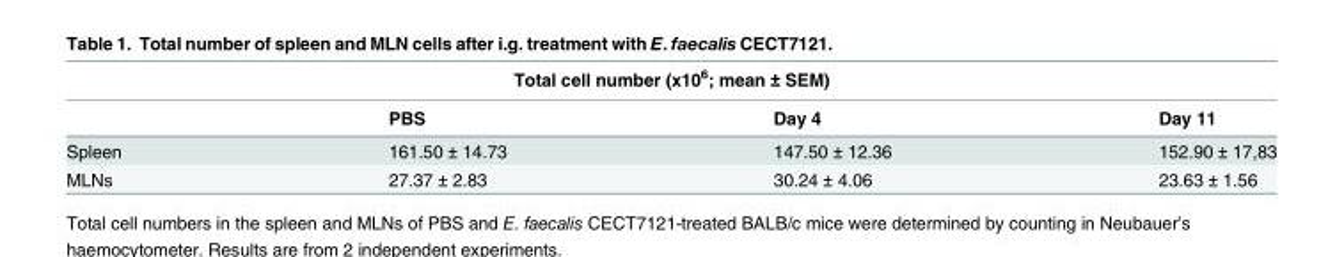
<table><thead><tr><td colspan="4">Total cell number (x10<sup>6</sup>; mean ± SEM)</td></tr><tr><td></td><td>PBS</td><td>Day 4</td><td>Day 11</td></tr></thead><tbody><tr><td>Spleen</td><td>161.50 ± 14.73</td><td>147.50 ± 12.36</td><td>152.90 ± 17,83</td></tr><tr><td>MLNs</td><td>27.37 ± 2.83</td><td>30.24 ± 4.06</td><td>23.63 ± 1.56</td></tr></tbody></table>